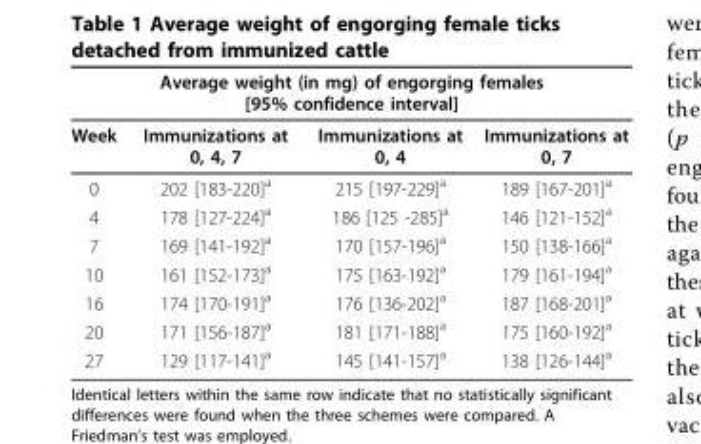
<table><thead><tr><td colspan="4">Average weight (in mg) of engorging females [95% confidence interval]</td></tr><tr><td>Week</td><td>Immunizations at 0, 4, 7</td><td>Immunizations at 0, 4</td><td>Immunizations at 0, 7</td></tr></thead><tbody><tr><td>0</td><td>202 [183-220]<sup>a</sup></td><td>215 [197-229]<sup>a</sup></td><td>189 [167-201]<sup>a</sup></td></tr><tr><td>4</td><td>178 [127-224]<sup>a</sup></td><td>186 [125 -285]<sup>a</sup></td><td>146 [121-152]<sup>a</sup></td></tr><tr><td>7</td><td>169 [141-192]<sup>a</sup></td><td>170 [157-196]<sup>a</sup></td><td>150 [138-166]<sup>a</sup></td></tr><tr><td>10</td><td>161 [152-173]<sup>a</sup></td><td>175 [163-192]<sup>a</sup></td><td>179 [161-194]<sup>a</sup></td></tr><tr><td>16</td><td>174 [170-191]<sup>a</sup></td><td>176 [136-202]<sup>a</sup></td><td>187 [168-201]<sup>a</sup></td></tr><tr><td>20</td><td>171 [156-187]<sup>a</sup></td><td>181 [171-188]<sup>a</sup></td><td>175 [160-192]<sup>a</sup></td></tr><tr><td>27</td><td>129 [117-141]<sup>a</sup></td><td>145 [141-157]<sup>a</sup></td><td>138 [126-144]<sup>a</sup></td></tr></tbody></table>